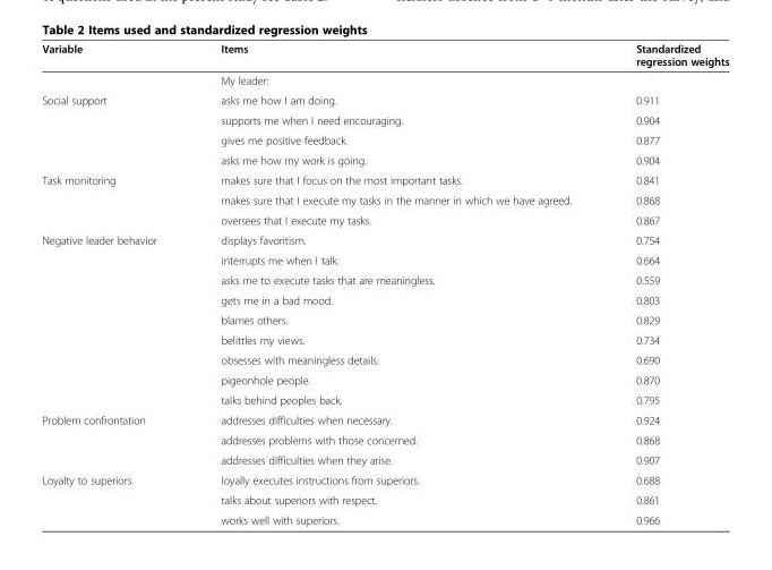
<table><thead><tr><td>Variable</td><td>Items</td><td>Standardized regression weights</td></tr></thead><tbody><tr><td></td><td>My leader:</td><td></td></tr><tr><td rowspan="4">Social support</td><td>asks me how I am doing.</td><td>0.911</td></tr><tr><td>supports me when I need encouraging.</td><td>0.904</td></tr><tr><td>gives me positive feedback.</td><td>0.877</td></tr><tr><td>asks me how my work is going.</td><td>0.904</td></tr><tr><td rowspan="3">Task monitoring</td><td>makes sure that I focus on the most important tasks.</td><td>0.841</td></tr><tr><td>makes sure that I execute my tasks in the manner in which we have agreed.</td><td>0.868</td></tr><tr><td>oversees that I execute my tasks.</td><td>0.867</td></tr><tr><td rowspan="9">Negative leader behavior</td><td>displays favoritism.</td><td>0.754</td></tr><tr><td>interrupts me when I talk.</td><td>0.664</td></tr><tr><td>asks me to execute tasks that are meaningless.</td><td>0.559</td></tr><tr><td>gets me in a bad mood.</td><td>0.803</td></tr><tr><td>blames others.</td><td>0.829</td></tr><tr><td>belittles my views.</td><td>0.734</td></tr><tr><td>obsesses with meaningless details.</td><td>0.690</td></tr><tr><td>pigeonhole people.</td><td>0.870</td></tr><tr><td>talks behind peoples back.</td><td>0.795</td></tr><tr><td rowspan="3">Problem confrontation</td><td>addresses difficulties when necessary.</td><td>0.924</td></tr><tr><td>addresses problems with those concerned.</td><td>0.868</td></tr><tr><td>addresses difficulties when they arise.</td><td>0.907</td></tr><tr><td rowspan="3">Loyalty to superiors</td><td>loyally executes instructions from superiors.</td><td>0.688</td></tr><tr><td>talks about superiors with respect.</td><td>0.861</td></tr><tr><td>works well with superiors.</td><td>0.966</td></tr></tbody></table>